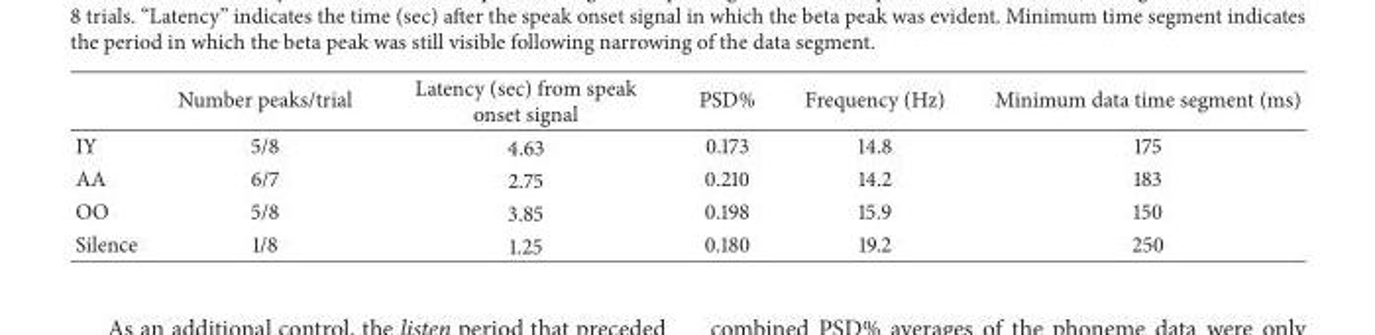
<table><thead><tr><td></td><td>Number peaks/trial</td><td>Latency (sec) from speak onset signal</td><td>PSD%</td><td>Frequency (Hz)</td><td>Minimum data time segment (ms)</td></tr></thead><tbody><tr><td>IY</td><td>5/8</td><td>4.63</td><td>0.173</td><td>14.8</td><td>175</td></tr><tr><td>AA</td><td>6/7</td><td>2.75</td><td>0.210</td><td>14.2</td><td>183</td></tr><tr><td>OO</td><td>5/8</td><td>3.85</td><td>0.198</td><td>15.9</td><td>150</td></tr><tr><td>Silence</td><td>1/8</td><td>1.25</td><td>0.180</td><td>19.2</td><td>250</td></tr></tbody></table>